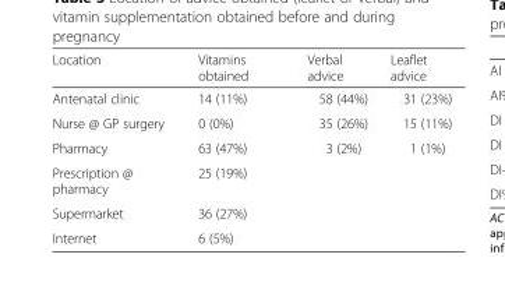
<table><thead><tr><td>Location</td><td>Vitamins obtained</td><td>Verbal advice</td><td>Leaflet advice</td></tr></thead><tbody><tr><td>Antenatal clinic</td><td>14 (11%)</td><td>58 (44%)</td><td>31 (23%)</td></tr><tr><td>Nurse @ GP surgery</td><td>0 (0%)</td><td>35 (26%)</td><td>15 (11%)</td></tr><tr><td>Pharmacy</td><td>63 (47%)</td><td>3 (2%)</td><td>1 (1%)</td></tr><tr><td>Prescription @ pharmacy</td><td>25 (19%)</td><td></td><td></td></tr><tr><td>Supermarket</td><td>36 (27%)</td><td></td><td></td></tr><tr><td>Internet</td><td>6 (5%)</td><td></td><td></td></tr></tbody></table>